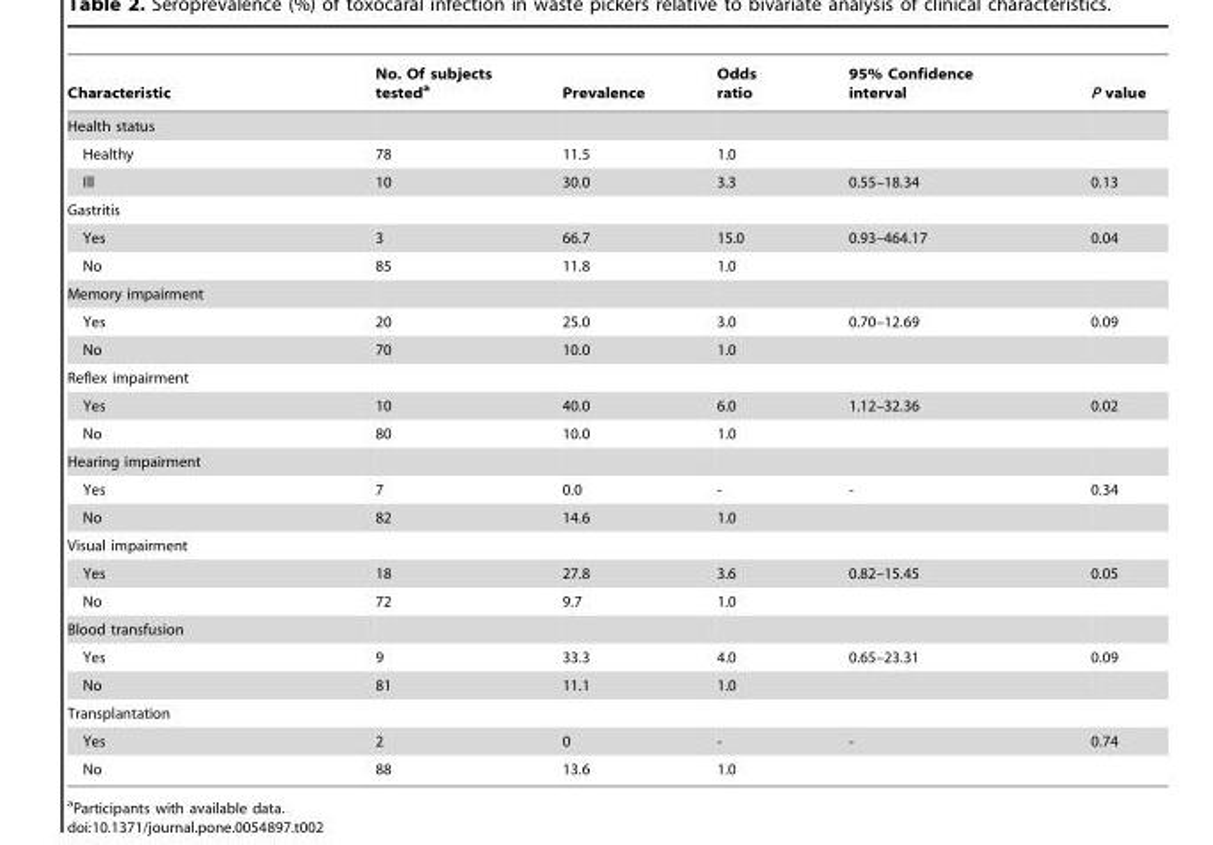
<table><thead><tr><td>Characteristic</td><td>No. Of subjects tested<sup>a</sup></td><td>Prevalence</td><td>Odds ratio</td><td>95% Confidence interval</td><td>P value</td></tr></thead><tbody><tr><td colspan="6">Health status</td></tr><tr><td>Healthy</td><td>78</td><td>11.5</td><td>1.0</td><td></td><td></td></tr><tr><td>Ill</td><td>10</td><td>30.0</td><td>3.3</td><td>0.55–18.34</td><td>0.13</td></tr><tr><td colspan="6">Gastritis</td></tr><tr><td>Yes</td><td>3</td><td>66.7</td><td>15.0</td><td>0.93–464.17</td><td>0.04</td></tr><tr><td>No</td><td>85</td><td>11.8</td><td>1.0</td><td></td><td></td></tr><tr><td colspan="6">Memory impairment</td></tr><tr><td>Yes</td><td>20</td><td>25.0</td><td>3.0</td><td>0.70–12.69</td><td>0.09</td></tr><tr><td>No</td><td>70</td><td>10.0</td><td>1.0</td><td></td><td></td></tr><tr><td colspan="6">Reflex impairment</td></tr><tr><td>Yes</td><td>10</td><td>40.0</td><td>6.0</td><td>1.12–32.36</td><td>0.02</td></tr><tr><td>No</td><td>80</td><td>10.0</td><td>1.0</td><td></td><td></td></tr><tr><td colspan="6">Hearing impairment</td></tr><tr><td>Yes</td><td>7</td><td>0.0</td><td>-</td><td>-</td><td>0.34</td></tr><tr><td>No</td><td>82</td><td>14.6</td><td>1.0</td><td></td><td></td></tr><tr><td colspan="6">Visual impairment</td></tr><tr><td>Yes</td><td>18</td><td>27.8</td><td>3.6</td><td>0.82–15.45</td><td>0.05</td></tr><tr><td>No</td><td>72</td><td>9.7</td><td>1.0</td><td></td><td></td></tr><tr><td colspan="6">Blood transfusion</td></tr><tr><td>Yes</td><td>9</td><td>33.3</td><td>4.0</td><td>0.65–23.31</td><td>0.09</td></tr><tr><td>No</td><td>81</td><td>11.1</td><td>1.0</td><td></td><td></td></tr><tr><td colspan="6">Transplantation</td></tr><tr><td>Yes</td><td>2</td><td>0</td><td>-</td><td>-</td><td>0.74</td></tr><tr><td>No</td><td>88</td><td>13.6</td><td>1.0</td><td></td><td></td></tr></tbody></table>